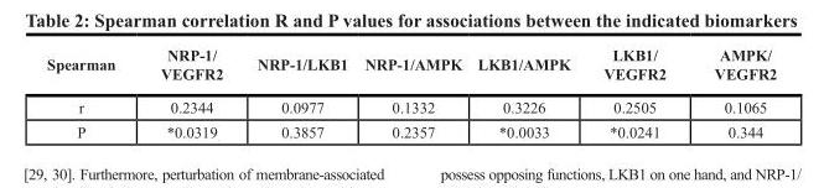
<table><thead><tr><td>Spearman</td><td>NRP-1/ VEGFR2</td><td>NRP-1/LKB1</td><td>NRP-1/AMPK</td><td>LKB1/AMPK</td><td>LKB1/ VEGFR2</td><td>AMPK/ VEGFR2</td></tr></thead><tbody><tr><td>r</td><td>0.2344</td><td>0.0977</td><td>0.1332</td><td>0.3226</td><td>0.2505</td><td>0.1065</td></tr><tr><td>P</td><td>*0.0319</td><td>0.3857</td><td>0.2357</td><td>*0.0033</td><td>*0.0241</td><td>0.344</td></tr></tbody></table>